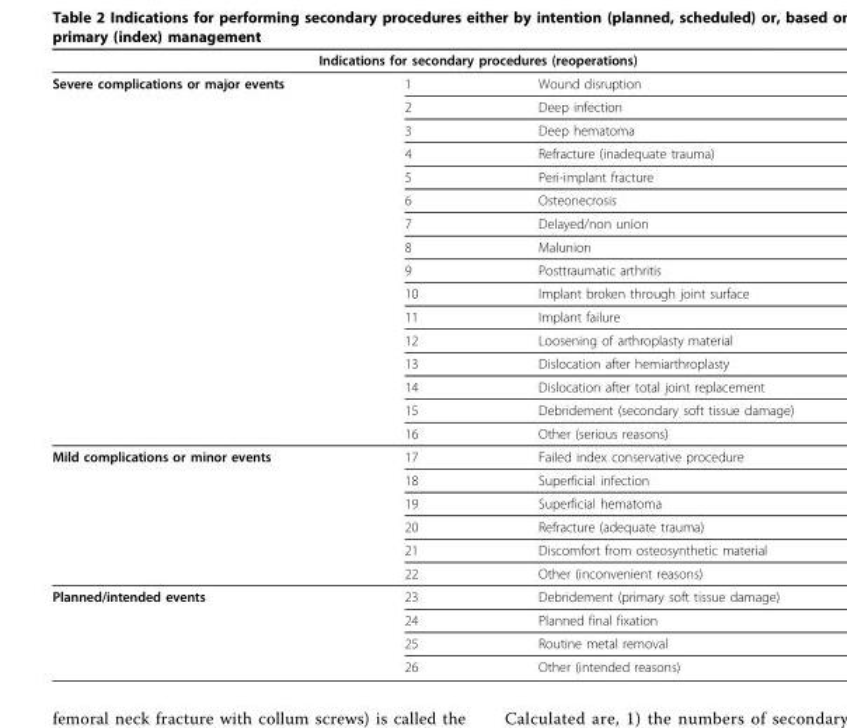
<table><thead><tr><td colspan="3">Indications for secondary procedures (reoperations)</td></tr><tr><td>Severe complications or major events</td><td>1</td><td>Wound disruption</td></tr></thead><tbody><tr><td></td><td>2</td><td>Deep infection</td></tr><tr><td></td><td>3</td><td>Deep hematoma</td></tr><tr><td></td><td>4</td><td>Refracture (inadequate trauma)</td></tr><tr><td></td><td>5</td><td>Peri-implant fracture</td></tr><tr><td></td><td>6</td><td>Osteonecrosis</td></tr><tr><td></td><td>7</td><td>Delayed/non union</td></tr><tr><td></td><td>8</td><td>Malunion</td></tr><tr><td></td><td>9</td><td>Posttraumatic arthritis</td></tr><tr><td></td><td>10</td><td>Implant broken through joint surface</td></tr><tr><td></td><td>11</td><td>Implant failure</td></tr><tr><td></td><td>12</td><td>Loosening of arthroplasty material</td></tr><tr><td></td><td>13</td><td>Dislocation after hemiarthroplasty</td></tr><tr><td></td><td>14</td><td>Dislocation after total joint replacement</td></tr><tr><td></td><td>15</td><td>Debridement (secondary soft tissue damage)</td></tr><tr><td></td><td>16</td><td>Other (serious reasons)</td></tr><tr><td rowspan="6">Mild complications or minor events</td><td>17</td><td>Failed index conservative procedure</td></tr><tr><td>18</td><td>Superficial infection</td></tr><tr><td>19</td><td>Superficial hematoma</td></tr><tr><td>20</td><td>Refracture (adequate trauma)</td></tr><tr><td>21</td><td>Discomfort from osteosynthetic material</td></tr><tr><td>22</td><td>Other (inconvenient reasons)</td></tr><tr><td rowspan="4">Planned/intended events</td><td>23</td><td>Debridement (primary soft tissue damage)</td></tr><tr><td>24</td><td>Planned final fixation</td></tr><tr><td>25</td><td>Routine metal removal</td></tr><tr><td>26</td><td>Other (intended reasons)</td></tr></tbody></table>